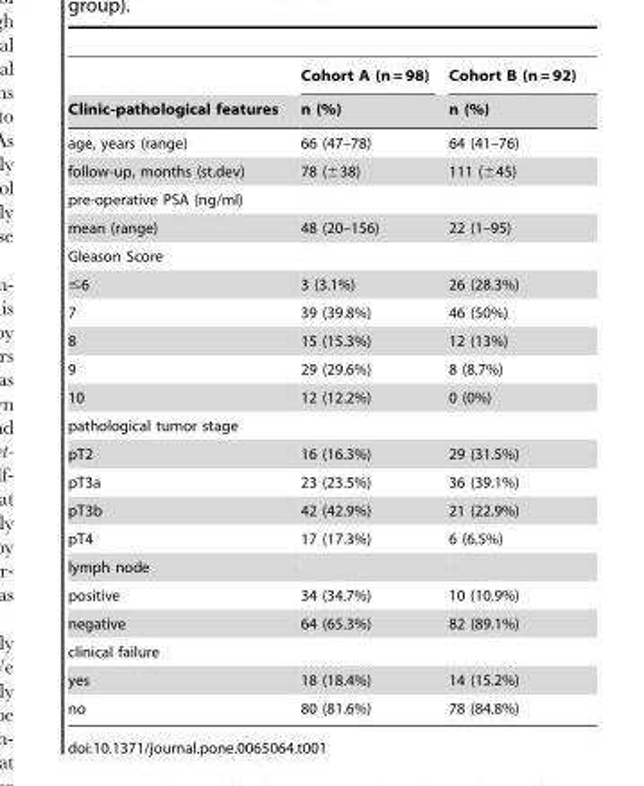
<table><thead><tr><td rowspan="2">Clinic-pathological features</td><td rowspan="2">Cohort A (n = 98) n (%)</td><td rowspan="2">Cohort B (n = 92) n (%)</td></tr><tr></tr></thead><tbody><tr><td>age, years (range)</td><td>66 (47–78)</td><td>64 (41–76)</td></tr><tr><td>follow-up, months (st.dev)</td><td>78 (±38)</td><td>111 (±45)</td></tr><tr><td colspan="3">pre-operative PSA (ng/ml)</td></tr><tr><td>mean (range)</td><td>48 (20–156)</td><td>22 (1–95)</td></tr><tr><td colspan="3">Gleason Score</td></tr><tr><td>≤6</td><td>3 (3.1%)</td><td>26 (28.3%)</td></tr><tr><td>7</td><td>39 (39.8%)</td><td>46 (50%)</td></tr><tr><td>8</td><td>15 (15.3%)</td><td>12 (13%)</td></tr><tr><td>9</td><td>29 (29.6%)</td><td>8 (8.7%)</td></tr><tr><td>10</td><td>12 (12.2%)</td><td>0 (0%)</td></tr><tr><td colspan="3">pathological tumor stage</td></tr><tr><td>pT2</td><td>16 (16.3%)</td><td>29 (31.5%)</td></tr><tr><td>pT3a</td><td>23 (23.5%)</td><td>36 (39.1%)</td></tr><tr><td>pT3b</td><td>42 (42.9%)</td><td>21 (22.9%)</td></tr><tr><td>pT4</td><td>17 (17.3%)</td><td>6 (6.5%)</td></tr><tr><td colspan="3">lymph node</td></tr><tr><td>positive</td><td>34 (34.7%)</td><td>10 (10.9%)</td></tr><tr><td>negative</td><td>64 (65.3%)</td><td>82 (89.1%)</td></tr><tr><td colspan="3">clinical failure</td></tr><tr><td>yes</td><td>18 (18.4%)</td><td>14 (15.2%)</td></tr><tr><td>no</td><td>80 (81.6%)</td><td>78 (84.8%)</td></tr></tbody></table>